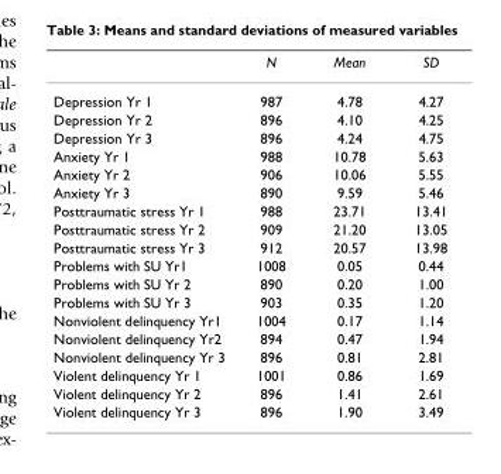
<table><thead><tr><td></td><td>N</td><td>Mean</td><td>SD</td></tr></thead><tbody><tr><td>Depression Yr 1</td><td>987</td><td>4.78</td><td>4.27</td></tr><tr><td>Depression Yr 2</td><td>896</td><td>4.10</td><td>4.25</td></tr><tr><td>Depression Yr 3</td><td>896</td><td>4.24</td><td>4.75</td></tr><tr><td>Anxiety Yr 1</td><td>988</td><td>10.78</td><td>5.63</td></tr><tr><td>Anxiety Yr 2</td><td>906</td><td>10.06</td><td>5.55</td></tr><tr><td>Anxiety Yr 3</td><td>890</td><td>9.59</td><td>5.46</td></tr><tr><td>Posttraumatic stress Yr 1</td><td>988</td><td>23.71</td><td>13.41</td></tr><tr><td>Posttraumatic stress Yr 2</td><td>909</td><td>21.20</td><td>13.05</td></tr><tr><td>Posttraumatic stress Yr 3</td><td>912</td><td>20.57</td><td>13.98</td></tr><tr><td>Problems with SU Yr1</td><td>1008</td><td>0.05</td><td>0.44</td></tr><tr><td>Problems with SU Yr 2</td><td>890</td><td>0.20</td><td>1.00</td></tr><tr><td>Problems with SU Yr 3</td><td>903</td><td>0.35</td><td>1.20</td></tr><tr><td>Nonviolent delinquency Yr1</td><td>1004</td><td>0.17</td><td>1.14</td></tr><tr><td>Nonviolent delinquency Yr2</td><td>894</td><td>0.47</td><td>1.94</td></tr><tr><td>Nonviolent delinquency Yr 3</td><td>896</td><td>0.81</td><td>2.81</td></tr><tr><td>Violent delinquency Yr 1</td><td>1001</td><td>0.86</td><td>1.69</td></tr><tr><td>Violent delinquency Yr 2</td><td>896</td><td>1.41</td><td>2.61</td></tr><tr><td>Violent delinquency Yr 3</td><td>896</td><td>1.90</td><td>3.49</td></tr></tbody></table>